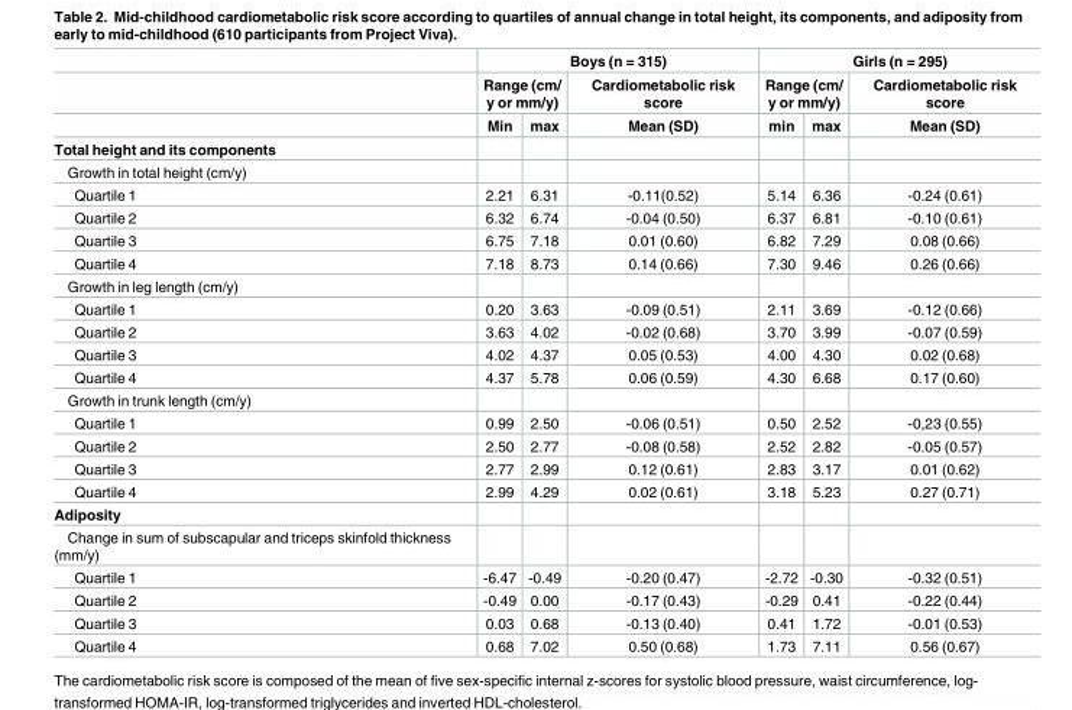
<table><thead><tr><td rowspan="3"></td><td colspan="3">Boys (n = 315)</td><td colspan="3">Girls (n = 295)</td></tr><tr><td colspan="2">Range (cm/ y or mm/y)</td><td rowspan="2">Cardiometabolic risk score Mean (SD)</td><td colspan="2">Range (cm/ y or mm/y)</td><td rowspan="2">Cardiometabolic risk score Mean (SD)</td></tr><tr><td>Min</td><td>max</td><td>min</td><td>max</td></tr></thead><tbody><tr><td colspan="7">Total height and its components</td></tr><tr><td colspan="7">Growth in total height (cm/y)</td></tr><tr><td>Quartile 1</td><td>2.21</td><td>6.31</td><td>-0.11(0.52)</td><td>5.14</td><td>6.36</td><td>-0.24 (0.61)</td></tr><tr><td>Quartile 2</td><td>6.32</td><td>6.74</td><td>-0.04 (0.50)</td><td>6.37</td><td>6.81</td><td>-0.10 (0.61)</td></tr><tr><td>Quartile 3</td><td>6.75</td><td>7.18</td><td>0.01 (0.60)</td><td>6.82</td><td>7.29</td><td>0.08 (0.66)</td></tr><tr><td>Quartile 4</td><td>7.18</td><td>8.73</td><td>0.14 (0.66)</td><td>7.30</td><td>9.46</td><td>0.26 (0.66)</td></tr><tr><td colspan="7">Growth in leg length (cm/y)</td></tr><tr><td>Quartile 1</td><td>0.20</td><td>3.63</td><td>-0.09 (0.51)</td><td>2.11</td><td>3.69</td><td>-0.12 (0.66)</td></tr><tr><td>Quartile 2</td><td>3.63</td><td>4.02</td><td>-0.02 (0.68)</td><td>3.70</td><td>3.99</td><td>-0.07 (0.59)</td></tr><tr><td>Quartile 3</td><td>4.02</td><td>4.37</td><td>0.05 (0.53)</td><td>4.00</td><td>4.30</td><td>0.02 (0.68)</td></tr><tr><td>Quartile 4</td><td>4.37</td><td>5.78</td><td>0.06 (0.59)</td><td>4.30</td><td>6.68</td><td>0.17 (0.60)</td></tr><tr><td colspan="7">Growth in trunk length (cm/y)</td></tr><tr><td>Quartile 1</td><td>0.99</td><td>2.50</td><td>-0.06 (0.51)</td><td>0.50</td><td>2.52</td><td>-0,23 (0.55)</td></tr><tr><td>Quartile 2</td><td>2.50</td><td>2.77</td><td>-0.08 (0.58)</td><td>2.52</td><td>2.82</td><td>-0.05 (0.57)</td></tr><tr><td>Quartile 3</td><td>2.77</td><td>2.99</td><td>0.12 (0.61)</td><td>2.83</td><td>3.17</td><td>0.01 (0.62)</td></tr><tr><td>Quartile 4</td><td>2.99</td><td>4.29</td><td>0.02 (0.61)</td><td>3.18</td><td>5.23</td><td>0.27 (0.71)</td></tr><tr><td colspan="7">Adiposity</td></tr><tr><td colspan="7">Change in sum of subscapular and triceps skinfold thickness (mm/y)</td></tr><tr><td>Quartile 1</td><td>-6.47</td><td>-0.49</td><td>-0.20 (0.47)</td><td>-2.72</td><td>-0.30</td><td>-0.32 (0.51)</td></tr><tr><td>Quartile 2</td><td>-0.49</td><td>0.00</td><td>-0.17 (0.43)</td><td>-0.29</td><td>0.41</td><td>-0.22 (0.44)</td></tr><tr><td>Quartile 3</td><td>0.03</td><td>0.68</td><td>-0.13 (0.40)</td><td>0.41</td><td>1.72</td><td>-0.01 (0.53)</td></tr><tr><td>Quartile 4</td><td>0.68</td><td>7.02</td><td>0.50 (0.68)</td><td>1.73</td><td>7.11</td><td>0.56 (0.67)</td></tr></tbody></table>